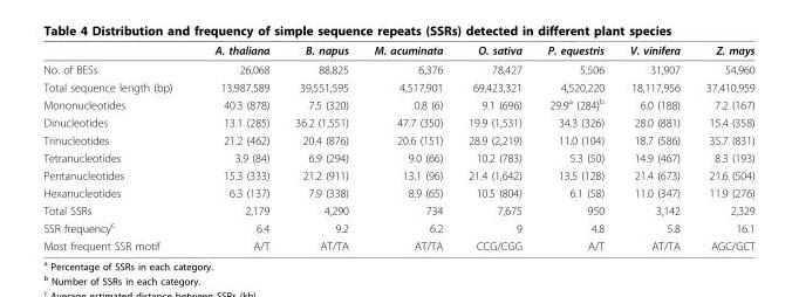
<table><thead><tr><td></td><td>A. thaliana</td><td>B. napus</td><td>M. acuminata</td><td>O. sativa</td><td>P. equestris</td><td>V. vinifera</td><td>Z. mays</td></tr></thead><tbody><tr><td>No. of BESs</td><td>26,068</td><td>88,825</td><td>6,376</td><td>78,427</td><td>5,506</td><td>31,907</td><td>54,960</td></tr><tr><td>Total sequence length (bp)</td><td>13,987,589</td><td>39,551,595</td><td>4,517,901</td><td>69,423,321</td><td>4,520,220</td><td>18,117,956</td><td>37,410,959</td></tr><tr><td>Mononucleotides</td><td>40.3 (878)</td><td>7.5 (320)</td><td>0.8 (6)</td><td>9.1 (696)</td><td>29.9<sup>a</sup> (284)<sup>b</sup></td><td>6.0 (188)</td><td>7.2 (167)</td></tr><tr><td>Dinucleotides</td><td>13.1 (285)</td><td>36.2 (1,551)</td><td>47.7 (350)</td><td>19.9 (1,531)</td><td>34.3 (326)</td><td>28.0 (881)</td><td>15.4 (358)</td></tr><tr><td>Trinucleotides</td><td>21.2 (462)</td><td>20.4 (876)</td><td>20.6 (151)</td><td>28.9 (2,219)</td><td>11.0 (104)</td><td>18.7 (586)</td><td>35.7 (831)</td></tr><tr><td>Tetranucleotides</td><td>3.9 (84)</td><td>6.9 (294)</td><td>9.0 (66)</td><td>10.2 (783)</td><td>5.3 (50)</td><td>14.9 (467)</td><td>8.3 (193)</td></tr><tr><td>Pentanucleotides</td><td>15.3 (333)</td><td>21.2 (911)</td><td>13.1 (96)</td><td>21.4 (1,642)</td><td>13.5 (128)</td><td>21.4 (673)</td><td>21.6 (504)</td></tr><tr><td>Hexanucleotides</td><td>6.3 (137)</td><td>7.9 (338)</td><td>8.9 (65)</td><td>10.5 (804)</td><td>6.1 (58)</td><td>11.0 (347)</td><td>11.9 (276)</td></tr><tr><td>Total SSRs</td><td>2,179</td><td>4,290</td><td>734</td><td>7,675</td><td>950</td><td>3,142</td><td>2,329</td></tr><tr><td>SSR frequency<sup>c</sup></td><td>6.4</td><td>9.2</td><td>6.2</td><td>9</td><td>4.8</td><td>5.8</td><td>16.1</td></tr><tr><td>Most frequent SSR motif</td><td>A/T</td><td>AT/TA</td><td>AT/TA</td><td>CCG/CGG</td><td>A/T</td><td>AT/TA</td><td>AGC/GCT</td></tr></tbody></table>